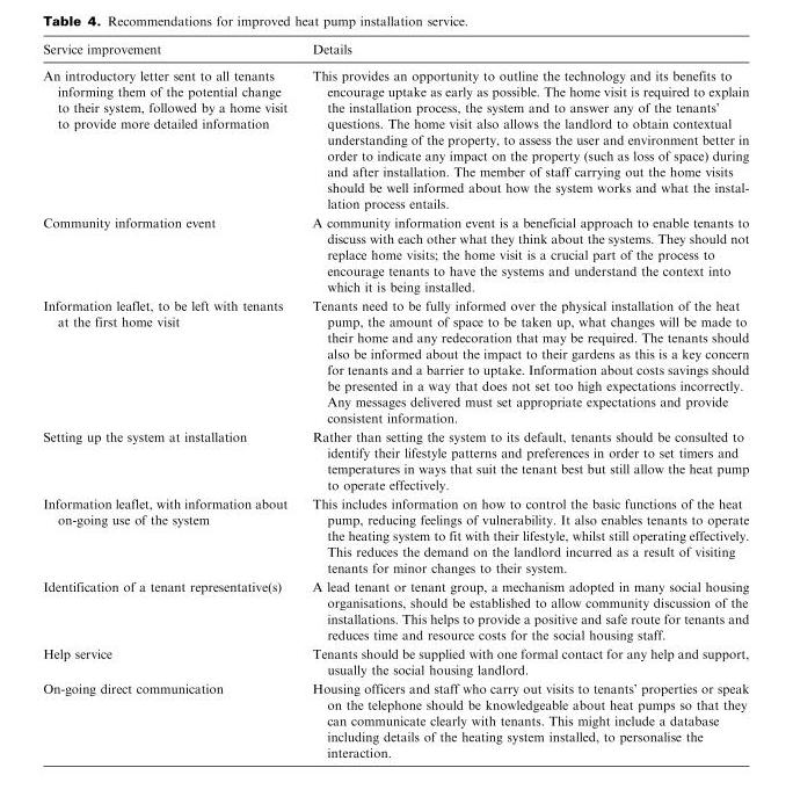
<table><thead><tr><td>Service improvement</td><td>Details</td></tr></thead><tbody><tr><td>An introductory letter sent to all tenants informing them of the potential change to their system, followed by a home visit to provide more detailed information</td><td>This provides an opportunity to outline the technology and its benefits to encourage uptake as early as possible. The home visit is required to explain the installation process, the system and to answer any of the tenants’ questions. The home visit also allows the landlord to obtain contextual understanding of the property, to assess the user and environment better in order to indicate any impact on the property (such as loss of space) during and after installation. The member of staff carrying out the home visits should be well informed about how the system works and what the instal- lation process entails.</td></tr><tr><td>Community information event</td><td>A community information event is a beneficial approach to enable tenants to discuss with each other what they think about the systems. They should not replace home visits; the home visit is a crucial part of the process to encourage tenants to have the systems and understand the context into which it is being installed.</td></tr><tr><td>Information leaflet, to be left with tenants at the first home visit</td><td>Tenants need to be fully informed over the physical installation of the heat pump, the amount of space to be taken up, what changes will be made to their home and any redecoration that may be required. The tenants should also be informed about the impact to their gardens as this is a key concern for tenants and a barrier to uptake. Information about costs savings should be presented in a way that does not set too high expectations incorrectly. Any messages delivered must set appropriate expectations and provide consistent information.</td></tr><tr><td>Setting up the system at installation</td><td>Rather than setting the system to its default, tenants should be consulted to identify their lifestyle patterns and preferences in order to set timers and temperatures in ways that suit the tenant best but still allow the heat pump to operate effectively.</td></tr><tr><td>Information leaflet, with information about on-going use of the system</td><td>This includes information on how to control the basic functions of the heat pump, reducing feelings of vulnerability. It also enables tenants to operate the heating system to fit with their lifestyle, whilst still operating effectively. This reduces the demand on the landlord incurred as a result of visiting tenants for minor changes to their system.</td></tr><tr><td>Identification of a tenant representative(s)</td><td>A lead tenant or tenant group, a mechanism adopted in many social housing organisations, should be established to allow community discussion of the installations. This helps to provide a positive and safe route for tenants and reduces time and resource costs for the social housing staff.</td></tr><tr><td>Help service</td><td>Tenants should be supplied with one formal contact for any help and support, usually the social housing landlord.</td></tr><tr><td>On-going direct communication</td><td>Housing officers and staff who carry out visits to tenants’ properties or speak on the telephone should be knowledgeable about heat pumps so that they can communicate clearly with tenants. This might include a database including details of the heating system installed, to personalise the interaction.</td></tr></tbody></table>